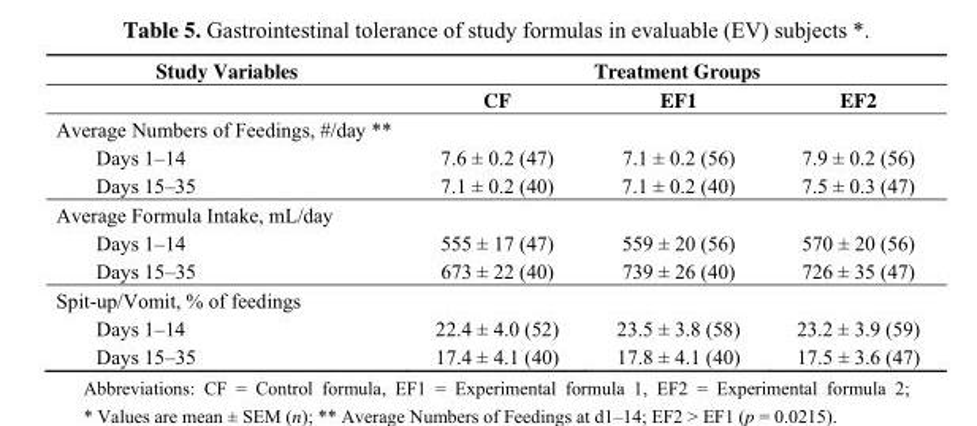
<table><thead><tr><td rowspan="2">Study Variables</td><td colspan="3">Treatment Groups</td></tr><tr><td>CF</td><td>EF1</td><td>EF2</td></tr></thead><tbody><tr><td colspan="4">Average Numbers of Feedings, #/day **</td></tr><tr><td>Days 1–14</td><td>7.6 ± 0.2 (47)</td><td>7.1 ± 0.2 (56)</td><td>7.9 ± 0.2 (56)</td></tr><tr><td>Days 15–35</td><td>7.1 ± 0.2 (40)</td><td>7.1 ± 0.2 (40)</td><td>7.5 ± 0.3 (47)</td></tr><tr><td colspan="4">Average Formula Intake, mL/day</td></tr><tr><td>Days 1–14</td><td>555 ± 17 (47)</td><td>559 ± 20 (56)</td><td>570 ± 20 (56)</td></tr><tr><td>Days 15–35</td><td>673 ± 22 (40)</td><td>739 ± 26 (40)</td><td>726 ± 35 (47)</td></tr><tr><td colspan="4">Spit-up/Vomit, % of feedings</td></tr><tr><td>Days 1–14</td><td>22.4 ± 4.0 (52)</td><td>23.5 ± 3.8 (58)</td><td>23.2 ± 3.9 (59)</td></tr><tr><td>Days 15–35</td><td>17.4 ± 4.1 (40)</td><td>17.8 ± 4.1 (40)</td><td>17.5 ± 3.6 (47)</td></tr></tbody></table>